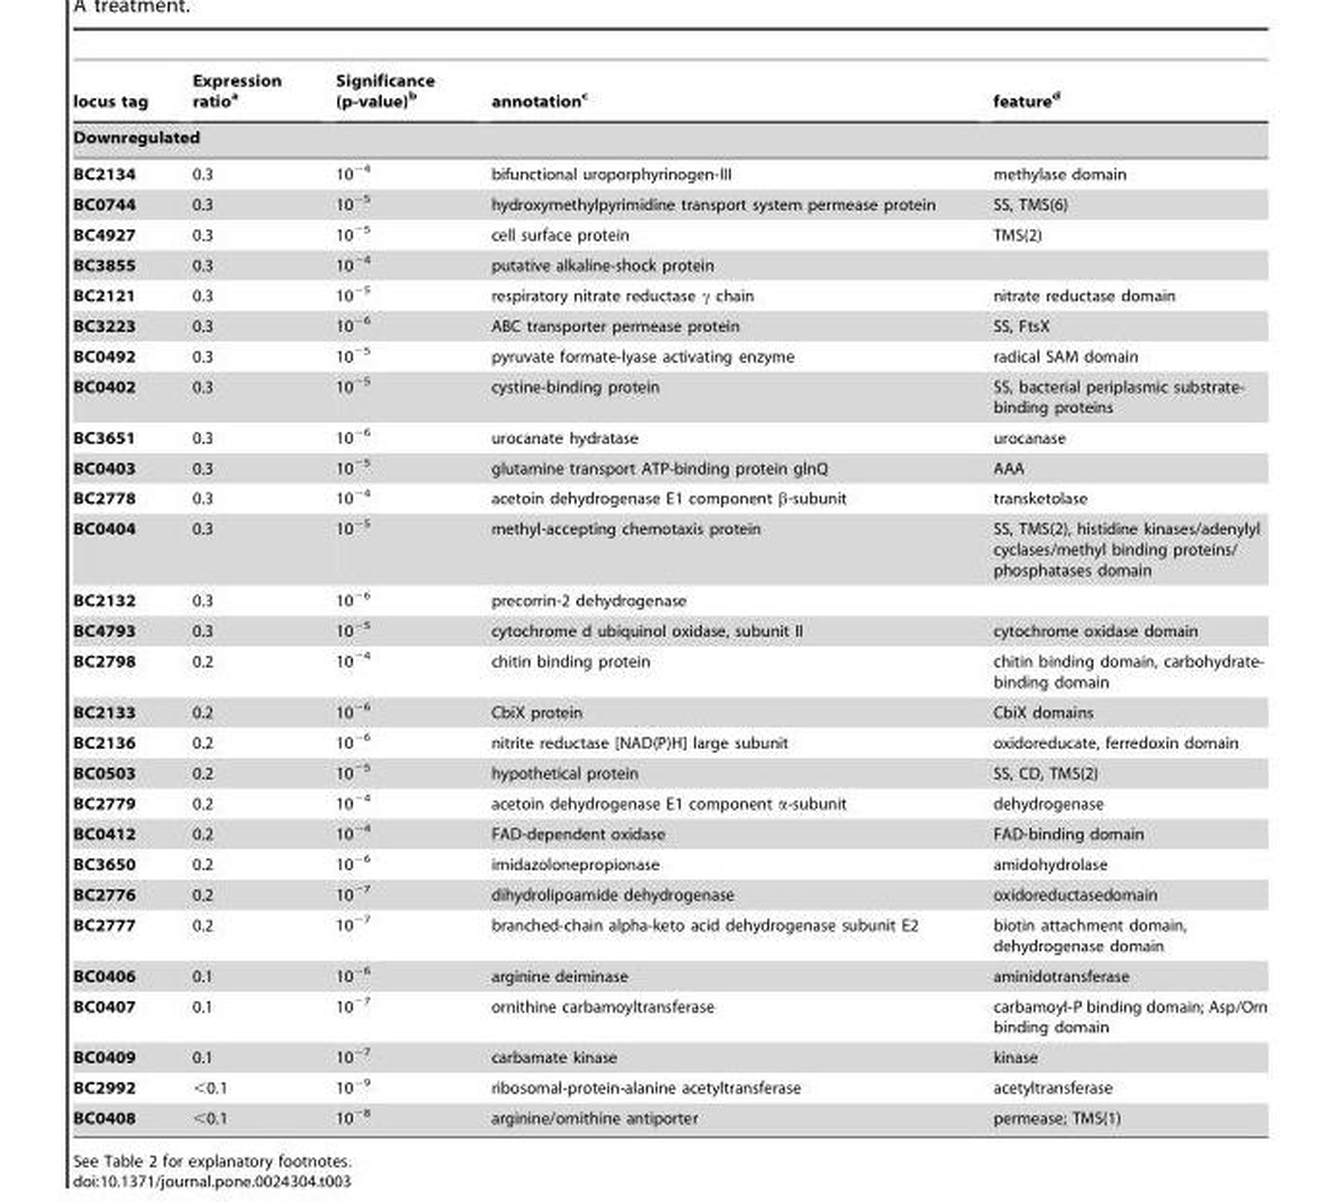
<table><thead><tr><td>locus tag</td><td>Expression ratio<sup>a</sup></td><td>Significance (p-value)<sup>b</sup></td><td>annotation<sup>c</sup></td><td>feature<sup>d</sup></td></tr><tr><td colspan="5">Downregulated</td></tr></thead><tbody><tr><td>BC2134</td><td>0.3</td><td>10<sup>−4</sup></td><td>bifunctional uroporphyrinogen-III</td><td>methylase domain</td></tr><tr><td>BC0744</td><td>0.3</td><td>10<sup>−5</sup></td><td>hydroxymethylpyrimidine transport system permease protein</td><td>SS, TMS(6)</td></tr><tr><td>BC4927</td><td>0.3</td><td>10<sup>−5</sup></td><td>cell surface protein</td><td>TMS(2)</td></tr><tr><td>BC3855</td><td>0.3</td><td>10<sup>−4</sup></td><td>putative alkaline-shock protein</td><td></td></tr><tr><td>BC2121</td><td>0.3</td><td>10<sup>−5</sup></td><td>respiratory nitrate reductase γ chain</td><td>nitrate reductase domain</td></tr><tr><td>BC3223</td><td>0.3</td><td>10<sup>−6</sup></td><td>ABC transporter permease protein</td><td>SS, FtsX</td></tr><tr><td>BC0492</td><td>0.3</td><td>10<sup>−5</sup></td><td>pyruvate formate-lyase activating enzyme</td><td>radical SAM domain</td></tr><tr><td>BC0402</td><td>0.3</td><td>10<sup>−5</sup></td><td>cystine-binding protein</td><td>SS, bacterial periplasmic substrate- binding proteins</td></tr><tr><td>BC3651</td><td>0.3</td><td>10<sup>−6</sup></td><td>urocanate hydratase</td><td>urocanase</td></tr><tr><td>BC0403</td><td>0.3</td><td>10<sup>−5</sup></td><td>glutamine transport ATP-binding protein glnQ</td><td>AAA</td></tr><tr><td>BC2778</td><td>0.3</td><td>10<sup>−4</sup></td><td>acetoin dehydrogenase E1 component β-subunit</td><td>transketolase</td></tr><tr><td>BC0404</td><td>0.3</td><td>10<sup>−5</sup></td><td>methyl-accepting chemotaxis protein</td><td>SS, TMS(2), histidine kinases/adenylyl cyclases/methyl binding proteins/ phosphatases domain</td></tr><tr><td>BC2132</td><td>0.3</td><td>10<sup>−6</sup></td><td>precorrin-2 dehydrogenase</td><td></td></tr><tr><td>BC4793</td><td>0.3</td><td>10<sup>−5</sup></td><td>cytochrome d ubiquinol oxidase, subunit II</td><td>cytochrome oxidase domain</td></tr><tr><td>BC2798</td><td>0.2</td><td>10<sup>−4</sup></td><td>chitin binding protein</td><td>chitin binding domain, carbohydrate- binding domain</td></tr><tr><td>BC2133</td><td>0.2</td><td>10<sup>−6</sup></td><td>CbiX protein</td><td>CbiX domains</td></tr><tr><td>BC2136</td><td>0.2</td><td>10<sup>−6</sup></td><td>nitrite reductase [NAD(P)H] large subunit</td><td>oxidoreducate, ferredoxin domain</td></tr><tr><td>BC0503</td><td>0.2</td><td>10<sup>−5</sup></td><td>hypothetical protein</td><td>SS, CD, TMS(2)</td></tr><tr><td>BC2779</td><td>0.2</td><td>10<sup>−4</sup></td><td>acetoin dehydrogenase E1 component α-subunit</td><td>dehydrogenase</td></tr><tr><td>BC0412</td><td>0.2</td><td>10<sup>−4</sup></td><td>FAD-dependent oxidase</td><td>FAD-binding domain</td></tr><tr><td>BC3650</td><td>0.2</td><td>10<sup>−6</sup></td><td>imidazolonepropionase</td><td>amidohydrolase</td></tr><tr><td>BC2776</td><td>0.2</td><td>10<sup>−7</sup></td><td>dihydrolipoamide dehydrogenase</td><td>oxidoreductasedomain</td></tr><tr><td>BC2777</td><td>0.2</td><td>10<sup>−7</sup></td><td>branched-chain alpha-keto acid dehydrogenase subunit E2</td><td>biotin attachment domain, dehydrogenase domain</td></tr><tr><td>BC0406</td><td>0.1</td><td>10<sup>−6</sup></td><td>arginine deiminase</td><td>aminidotransferase</td></tr><tr><td>BC0407</td><td>0.1</td><td>10<sup>−7</sup></td><td>ornithine carbamoyltransferase</td><td>carbamoyl-P binding domain; Asp/Orn binding domain</td></tr><tr><td>BC0409</td><td>0.1</td><td>10<sup>−7</sup></td><td>carbamate kinase</td><td>kinase</td></tr><tr><td>BC2992</td><td>&lt;0.1</td><td>10<sup>−9</sup></td><td>ribosomal-protein-alanine acetyltransferase</td><td>acetyltransferase</td></tr><tr><td>BC0408</td><td>&lt;0.1</td><td>10<sup>−8</sup></td><td>arginine/ornithine antiporter</td><td>permease; TMS(1)</td></tr></tbody></table>